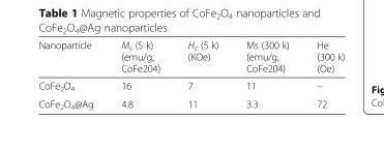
<table><thead><tr><td>Nanoparticle</td><td>M<sub>s</sub> (5 k) (emu/g, CoFe204)</td><td>H<sub>c</sub> (5 k) (KOe)</td><td>Ms (300 k) (emu/g, CoFe204)</td><td>He (300 k) (Oe)</td></tr></thead><tbody><tr><td>CoFe<sub>2</sub>O<sub>4</sub></td><td>16</td><td>7</td><td>11</td><td>–</td></tr><tr><td>CoFe<sub>2</sub>O<sub>4</sub>@Ag</td><td>4.8</td><td>11</td><td>3.3</td><td>72</td></tr></tbody></table>